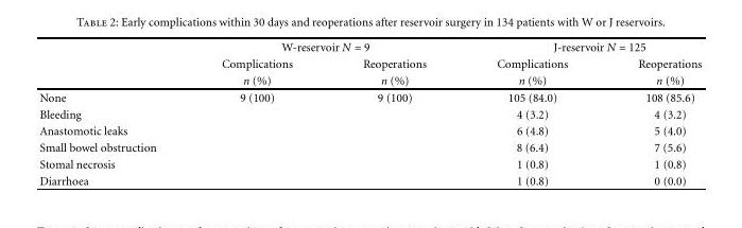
<table><thead><tr><td rowspan="3"></td><td colspan="2">W-reservoir N = 9</td><td colspan="2">J-reservoir N = 125</td></tr><tr><td rowspan="2">Complications n (%)</td><td rowspan="2">Reoperations n (%)</td><td rowspan="2">Complications n (%)</td><td rowspan="2">Reoperations n (%)</td></tr><tr></tr></thead><tbody><tr><td>None</td><td>9 (100)</td><td>9 (100)</td><td>105 (84.0)</td><td>108 (85.6)</td></tr><tr><td>Bleeding</td><td></td><td></td><td>4 (3.2)</td><td>4 (3.2)</td></tr><tr><td>Anastomotic leaks</td><td></td><td></td><td>6 (4.8)</td><td>5 (4.0)</td></tr><tr><td>Small bowel obstruction</td><td></td><td></td><td>8 (6.4)</td><td>7 (5.6)</td></tr><tr><td>Stomal necrosis</td><td></td><td></td><td>1 (0.8)</td><td>1 (0.8)</td></tr><tr><td>Diarrhoea</td><td></td><td></td><td>1 (0.8)</td><td>0 (0.0)</td></tr></tbody></table>